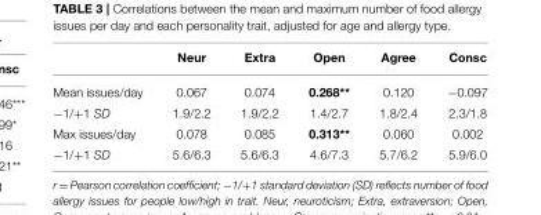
<table><thead><tr><td></td><td>Neur</td><td>Extra</td><td>Open</td><td>Agree</td><td>Consc</td></tr></thead><tbody><tr><td>Mean issues/day</td><td>0.067</td><td>0.074</td><td>0.268**</td><td>0.120</td><td>−0.097</td></tr><tr><td>−1/+1 SD</td><td>1.9/2.2</td><td>1.9/2.2</td><td>1.4/2.7</td><td>1.8/2.4</td><td>2.3/1.8</td></tr><tr><td>Max issues/day</td><td>0.078</td><td>0.085</td><td>0.313**</td><td>0.060</td><td>0.002</td></tr><tr><td>−1/+1 SD</td><td>5.6/6.3</td><td>5.6/6.3</td><td>4.6/7.3</td><td>5.7/6.2</td><td>5.9/6.0</td></tr></tbody></table>